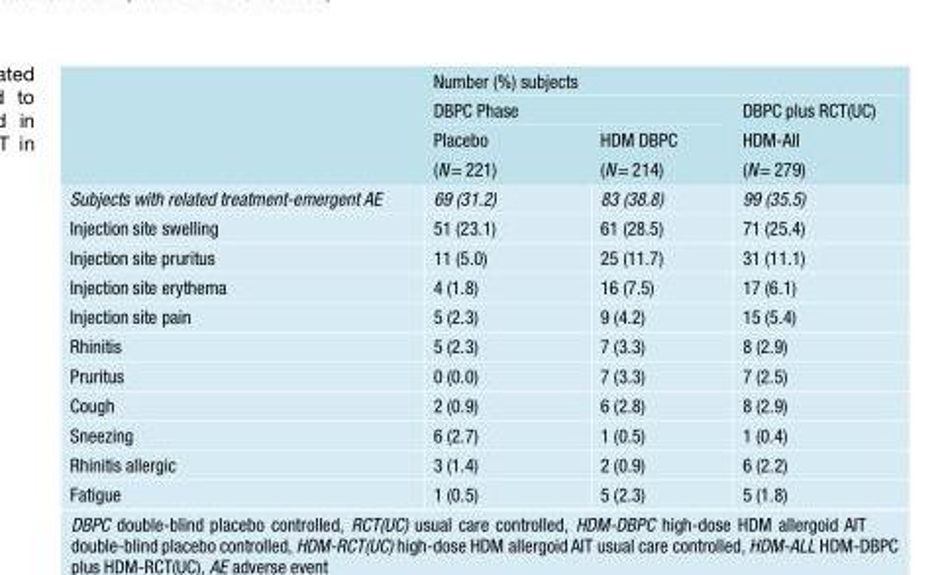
<table><thead><tr><td rowspan="4"></td><td colspan="3">Number (%) subjects</td></tr><tr><td colspan="2">DBPC Phase</td><td rowspan="3">DBPC plus RCT(UC) HDM-All (N= 279)</td></tr><tr><td rowspan="2">Placebo (N= 221)</td><td rowspan="2">HDM DBPC (N= 214)</td></tr><tr></tr></thead><tbody><tr><td>Subjects with related treatment-emergent AE</td><td>69 (31.2)</td><td>83 (38.8)</td><td>99 (35.5)</td></tr><tr><td>Injection site swelling</td><td>51 (23.1)</td><td>61 (28.5)</td><td>71 (25.4)</td></tr><tr><td>Injection site pruritus</td><td>11 (5.0)</td><td>25 (11.7)</td><td>31 (11.1)</td></tr><tr><td>Injection site erythema</td><td>4 (1.8)</td><td>16 (7.5)</td><td>17 (6.1)</td></tr><tr><td>Injection site pain</td><td>5 (2.3)</td><td>9 (4.2)</td><td>15 (5.4)</td></tr><tr><td>Rhinitis</td><td>5 (2.3)</td><td>7 (3.3)</td><td>8 (2.9)</td></tr><tr><td>Pruritus</td><td>0 (0.0)</td><td>7 (3.3)</td><td>7 (2.5)</td></tr><tr><td>Cough</td><td>2 (0.9)</td><td>6 (2.8)</td><td>8 (2.9)</td></tr><tr><td>Sneezing</td><td>6 (2.7)</td><td>1 (0.5)</td><td>1 (0.4)</td></tr><tr><td>Rhinitis allergic</td><td>3 (1.4)</td><td>2 (0.9)</td><td>6 (2.2)</td></tr><tr><td>Fatigue</td><td>1 (0.5)</td><td>5 (2.3)</td><td>5 (1.8)</td></tr></tbody></table>